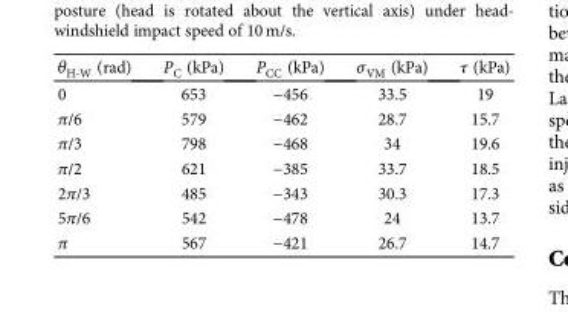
<table><thead><tr><td>θ<sub>H‐W</sub> (rad)</td><td>P<sub>C</sub> (kPa)</td><td>P<sub>CC</sub> (kPa)</td><td>σ<sub>VM</sub> (kPa)</td><td>τ (kPa)</td></tr></thead><tbody><tr><td>0</td><td>653</td><td>−456</td><td>33.5</td><td>19</td></tr><tr><td>π/6</td><td>579</td><td>−462</td><td>28.7</td><td>15.7</td></tr><tr><td>π/3</td><td>798</td><td>−468</td><td>34</td><td>19.6</td></tr><tr><td>π/2</td><td>621</td><td>−385</td><td>33.7</td><td>18.5</td></tr><tr><td>2π/3</td><td>485</td><td>−343</td><td>30.3</td><td>17.3</td></tr><tr><td>5π/6</td><td>542</td><td>−478</td><td>24</td><td>13.7</td></tr><tr><td>π</td><td>567</td><td>−421</td><td>26.7</td><td>14.7</td></tr></tbody></table>